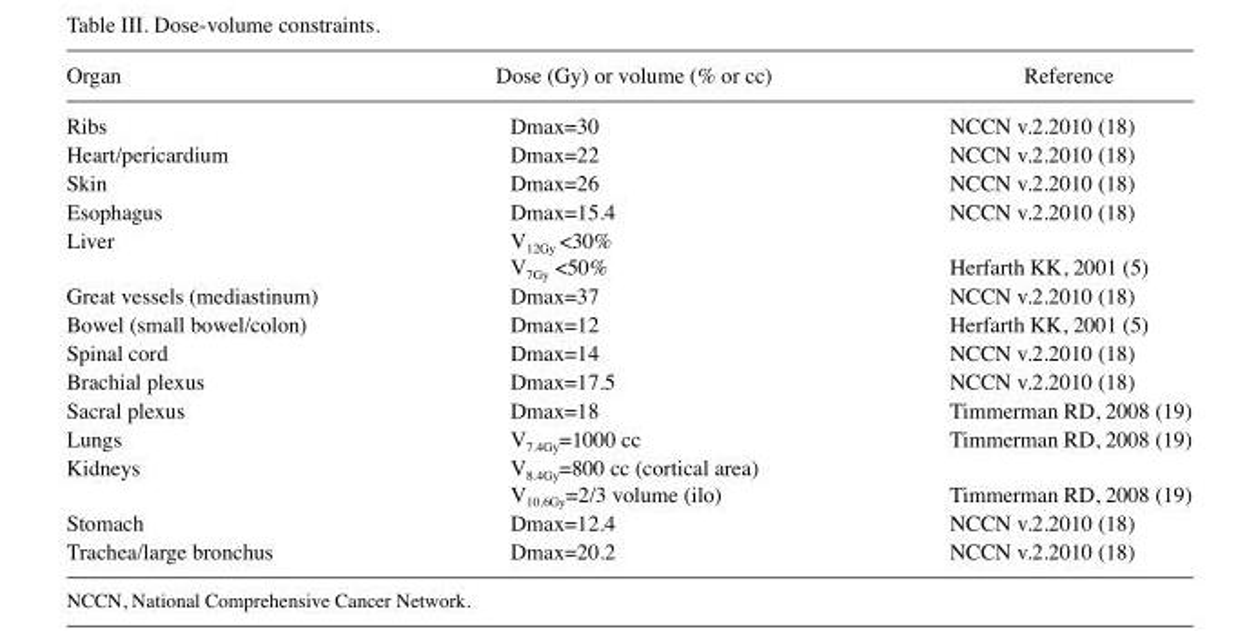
<table><thead><tr><td>Organ</td><td>Dose (Gy) or volume (% or cc)</td><td>Reference</td></tr></thead><tbody><tr><td>Ribs</td><td>Dmax=30</td><td>NCCN v.2.2010 (18)</td></tr><tr><td>Heart/pericardium</td><td>Dmax=22</td><td>NCCN v.2.2010 (18)</td></tr><tr><td>Skin</td><td>Dmax=26</td><td>NCCN v.2.2010 (18)</td></tr><tr><td>Esophagus</td><td>Dmax=15.4</td><td>NCCN v.2.2010 (18)</td></tr><tr><td rowspan="2">Liver</td><td>V<sub>12Gy</sub> &lt;30%</td><td></td></tr><tr><td>V<sub>7Gy</sub> &lt;50%</td><td>Herfarth KK, 2001 (5)</td></tr><tr><td>Great vessels (mediastinum)</td><td>Dmax=37</td><td>NCCN v.2.2010 (18)</td></tr><tr><td>Bowel (small bowel/colon)</td><td>Dmax=12</td><td>Herfarth KK, 2001 (5)</td></tr><tr><td>Spinal cord</td><td>Dmax=14</td><td>NCCN v.2.2010 (18)</td></tr><tr><td>Brachial plexus</td><td>Dmax=17.5</td><td>NCCN v.2.2010 (18)</td></tr><tr><td>Sacral plexus</td><td>Dmax=18</td><td>Timmerman RD, 2008 (19)</td></tr><tr><td>Lungs</td><td>V<sub>7.4Gy</sub>=1000 cc</td><td>Timmerman RD, 2008 (19)</td></tr><tr><td rowspan="2">Kidneys</td><td>V<sub>8.4Gy</sub>=800 cc (cortical area)</td><td></td></tr><tr><td>V<sub>10.6Gy</sub>=2/3 volume (ilo)</td><td>Timmerman RD, 2008 (19)</td></tr><tr><td>Stomach</td><td>Dmax=12.4</td><td>NCCN v.2.2010 (18)</td></tr><tr><td>Trachea/large bronchus</td><td>Dmax=20.2</td><td>NCCN v.2.2010 (18)</td></tr></tbody></table>